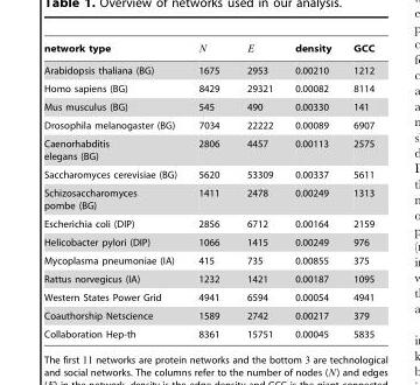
<table><thead><tr><td>network type</td><td>N</td><td>E</td><td>density</td><td>GCC</td></tr></thead><tbody><tr><td>Arabidopsis thaliana (BG)</td><td>1675</td><td>2953</td><td>0.00210</td><td>1212</td></tr><tr><td>Homo sapiens (BG)</td><td>8429</td><td>29321</td><td>0.00082</td><td>8114</td></tr><tr><td>Mus musculus (BG)</td><td>545</td><td>490</td><td>0.00330</td><td>141</td></tr><tr><td>Drosophila melanogaster (BG)</td><td>7034</td><td>22222</td><td>0.00089</td><td>6907</td></tr><tr><td>Caenorhabditis elegans (BG)</td><td>2806</td><td>4457</td><td>0.00113</td><td>2575</td></tr><tr><td>Saccharomyces cerevisiae (BG)</td><td>5620</td><td>53309</td><td>0.00337</td><td>5611</td></tr><tr><td>Schizosaccharomyces pombe (BG)</td><td>1411</td><td>2478</td><td>0.00249</td><td>1313</td></tr><tr><td>Escherichia coli (DIP)</td><td>2856</td><td>6712</td><td>0.00164</td><td>2159</td></tr><tr><td>Helicobacter pylori (DIP)</td><td>1066</td><td>1415</td><td>0.00249</td><td>976</td></tr><tr><td>Mycoplasma pneumoniae (IA)</td><td>415</td><td>735</td><td>0.00855</td><td>375</td></tr><tr><td>Rattus norvegicus (IA)</td><td>1232</td><td>1421</td><td>0.00187</td><td>1095</td></tr><tr><td>Western States Power Grid</td><td>4941</td><td>6594</td><td>0.00054</td><td>4941</td></tr><tr><td>Coauthorship Netscience</td><td>1589</td><td>2742</td><td>0.00217</td><td>379</td></tr><tr><td>Collaboration Hep-th</td><td>8361</td><td>15751</td><td>0.00045</td><td>5835</td></tr></tbody></table>